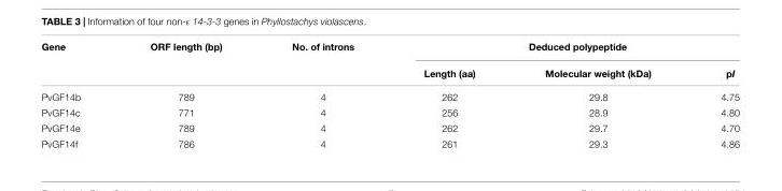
<table><thead><tr><td rowspan="2">Gene</td><td rowspan="2">ORF length (bp)</td><td rowspan="2">No. of introns</td><td colspan="3">Deduced polypeptide</td></tr><tr><td>Length (aa)</td><td>Molecular weight (kDa)</td><td>pI</td></tr></thead><tbody><tr><td>PvGF14b</td><td>789</td><td>4</td><td>262</td><td>29.8</td><td>4.75</td></tr><tr><td>PvGF14c</td><td>771</td><td>4</td><td>256</td><td>28.9</td><td>4.80</td></tr><tr><td>PvGF14e</td><td>789</td><td>4</td><td>262</td><td>29.7</td><td>4.70</td></tr><tr><td>PvGF14f</td><td>786</td><td>4</td><td>261</td><td>29.3</td><td>4.86</td></tr></tbody></table>